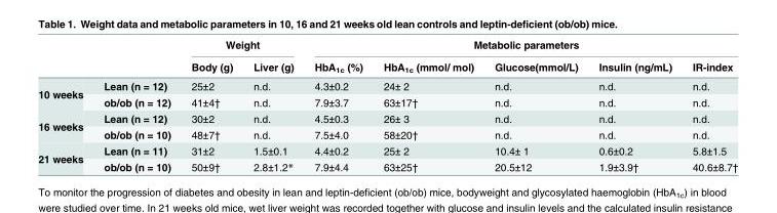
<table><thead><tr><td rowspan="2"></td><td rowspan="2"></td><td colspan="2">Weight</td><td colspan="5">Metabolic parameters</td></tr><tr><td>Body (g)</td><td>Liver (g)</td><td>HbA<sub>1c</sub> (%)</td><td>HbA<sub>1c</sub> (mmol/ mol)</td><td>Glucose(mmol/L)</td><td>Insulin (ng/mL)</td><td>IR-index</td></tr></thead><tbody><tr><td rowspan="2">10 weeks</td><td>Lean (n = 12)</td><td>25±2</td><td>n.d.</td><td>4.3±0.2</td><td>24± 2</td><td>n.d.</td><td>n.d.</td><td>n.d.</td></tr><tr><td>ob/ob (n = 12)</td><td>41±4†</td><td>n.d.</td><td>7.9±3.7</td><td>63±17†</td><td>n.d.</td><td>n.d.</td><td>n.d.</td></tr><tr><td rowspan="2">16 weeks</td><td>Lean (n = 12)</td><td>30±2</td><td>n.d.</td><td>4.5±0.3</td><td>26± 3</td><td>n.d.</td><td>n.d.</td><td>n.d.</td></tr><tr><td>ob/ob (n = 10)</td><td>48±7†</td><td>n.d.</td><td>7.5±4.0</td><td>58±20†</td><td>n.d.</td><td>n.d.</td><td>n.d.</td></tr><tr><td rowspan="2">21 weeks</td><td>Lean (n = 11)</td><td>31±2</td><td>1.5±0.1</td><td>4.4±0.2</td><td>25± 2</td><td>10.4± 1</td><td>0.6±0.2</td><td>5.8±1.5</td></tr><tr><td>ob/ob (n = 10)</td><td>50±9†</td><td>2.8±1.2*</td><td>7.9±4.4</td><td>63±25†</td><td>20.5±12</td><td>1.9±3.9†</td><td>40.6±8.7†</td></tr></tbody></table>